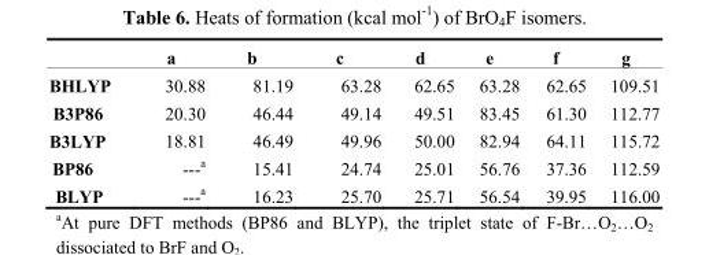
<table><thead><tr><td></td><td>a</td><td>b</td><td>c</td><td>d</td><td>e</td><td>f</td><td>g</td></tr></thead><tbody><tr><td>BHLYP</td><td>30.88</td><td>81.19</td><td>63.28</td><td>62.65</td><td>63.28</td><td>62.65</td><td>109.51</td></tr><tr><td>B3P86</td><td>20.30</td><td>46.44</td><td>49.14</td><td>49.51</td><td>83.45</td><td>61.30</td><td>112.77</td></tr><tr><td>B3LYP</td><td>18.81</td><td>46.49</td><td>49.96</td><td>50.00</td><td>82.94</td><td>64.11</td><td>115.72</td></tr><tr><td>BP86</td><td>---a</td><td>15.41</td><td>24.74</td><td>25.01</td><td>56.76</td><td>37.36</td><td>112.59</td></tr><tr><td>BLYP</td><td>---a</td><td>16.23</td><td>25.70</td><td>25.71</td><td>56.54</td><td>39.95</td><td>116.00</td></tr></tbody></table>